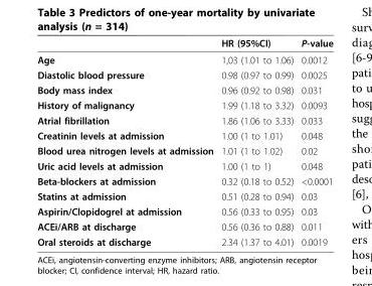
<table><thead><tr><td></td><td>HR (95%CI)</td><td>P-value</td></tr></thead><tbody><tr><td>Age</td><td>1,03 (1.01 to 1.06)</td><td>0.0012</td></tr><tr><td>Diastolic blood pressure</td><td>0.98 (0.97 to 0.99)</td><td>0.0025</td></tr><tr><td>Body mass index</td><td>0.96 (0.92 to 0.98)</td><td>0.031</td></tr><tr><td>History of malignancy</td><td>1.99 (1.18 to 3.32)</td><td>0.0093</td></tr><tr><td>Atrial fibrillation</td><td>1.86 (1.06 to 3.33)</td><td>0.033</td></tr><tr><td>Creatinin levels at admission</td><td>1.00 (1 to 1.01)</td><td>0.048</td></tr><tr><td>Blood urea nitrogen levels at admission</td><td>1.01 (1 to 1.02)</td><td>0.02</td></tr><tr><td>Uric acid levels at admission</td><td>1.00 (1 to 1)</td><td>0.048</td></tr><tr><td>Beta-blockers at admission</td><td>0.32 (0.18 to 0.52)</td><td>&lt;0.0001</td></tr><tr><td>Statins at admission</td><td>0.51 (0.28 to 0.94)</td><td>0.03</td></tr><tr><td>Aspirin/Clopidogrel at admission</td><td>0.56 (0.33 to 0.95)</td><td>0.03</td></tr><tr><td>ACEi/ARB at discharge</td><td>0.56 (0.36 to 0.88)</td><td>0.011</td></tr><tr><td>Oral steroids at discharge</td><td>2.34 (1.37 to 4.01)</td><td>0.0019</td></tr></tbody></table>